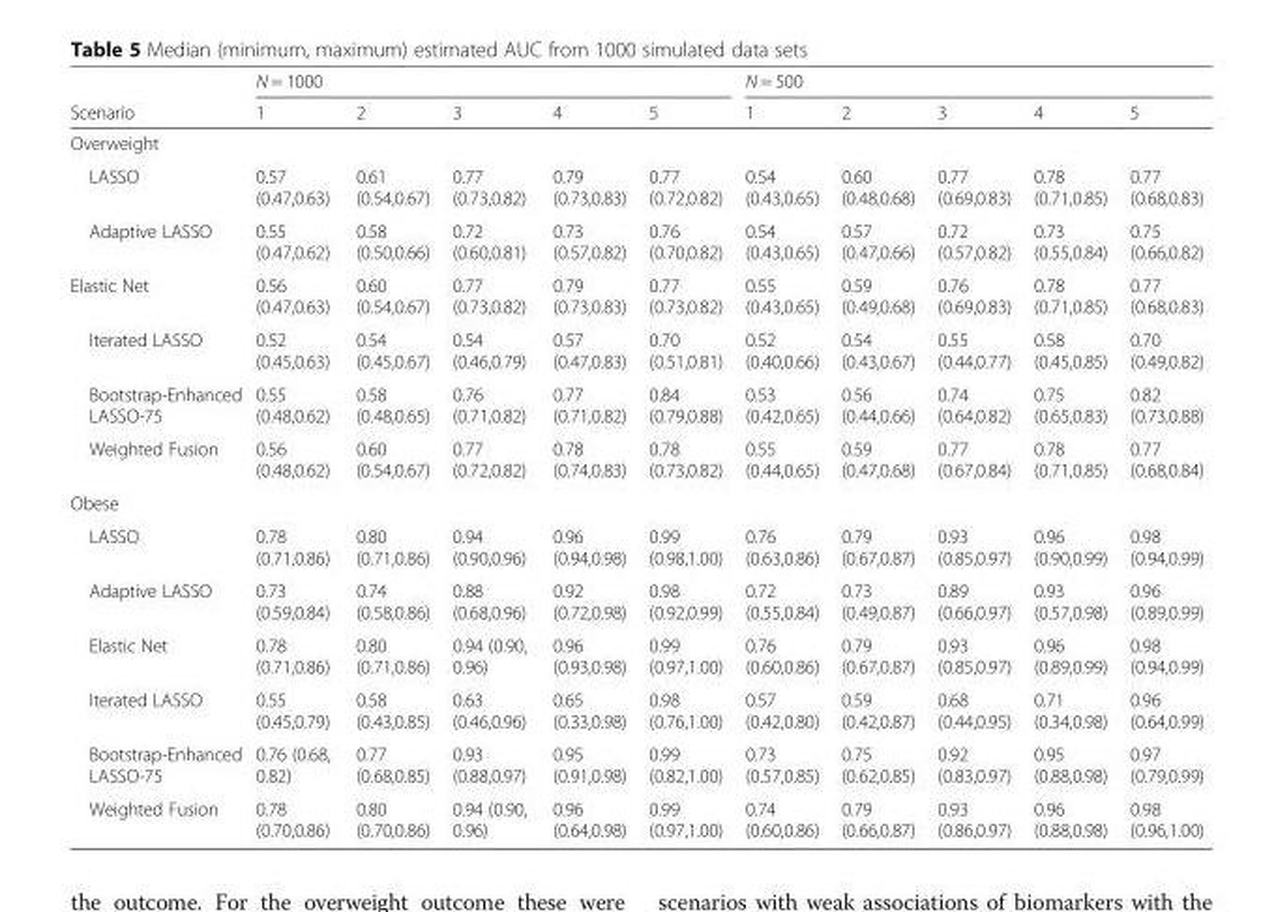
<table><thead><tr><td rowspan="2">Scenario</td><td colspan="5">N = 1000</td><td colspan="5">N = 500</td></tr><tr><td>1</td><td>2</td><td>3</td><td>4</td><td>5</td><td>1</td><td>2</td><td>3</td><td>4</td><td>5</td></tr></thead><tbody><tr><td colspan="11">Overweight</td></tr><tr><td>LASSO</td><td>0.57 (0.47,0.63)</td><td>0.61 (0.54,0.67)</td><td>0.77 (0.73,0.82)</td><td>0.79 (0.73,0.83)</td><td>0.77 (0.72,0.82)</td><td>0.54 (0.43,0.65)</td><td>0.60 (0.48,0.68)</td><td>0.77 (0.69,0.83)</td><td>0.78 (0.71,0.85)</td><td>0.77 (0.68,0.83)</td></tr><tr><td>Adaptive LASSO</td><td>0.55 (0.47,0.62)</td><td>0.58 (0.50,0.66)</td><td>0.72 (0.60,0.81)</td><td>0.73 (0.57,0.82)</td><td>0.76 (0.70,0.82)</td><td>0.54 (0.43,0.65)</td><td>0.57 (0.47,0.66)</td><td>0.72 (0.57,0.82)</td><td>0.73 (0.55,0.84)</td><td>0.75 (0.66,0.82)</td></tr><tr><td>Elastic Net</td><td>0.56 (0.47,0.63)</td><td>0.60 (0.54,0.67)</td><td>0.77 (0.73,0.82)</td><td>0.79 (0.73,0.83)</td><td>0.77 (0.73,0.82)</td><td>0.55 (0.43,0.65)</td><td>0.59 (0.49,0.68)</td><td>0.76 (0.69,0.83)</td><td>0.78 (0.71,0.85)</td><td>0.77 (0.68,0.83)</td></tr><tr><td>Iterated LASSO</td><td>0.52 (0.45,0.63)</td><td>0.54 (0.45,0.67)</td><td>0.54 (0.46,0.79)</td><td>0.57 (0.47,0.83)</td><td>0.70 (0.51,0.81)</td><td>0.52 (0.40,0.66)</td><td>0.54 (0.43,0.67)</td><td>0.55 (0.44,0.77)</td><td>0.58 (0.45,0.85)</td><td>0.70 (0.49,0.82)</td></tr><tr><td>Bootstrap-Enhanced LASSO-75</td><td>0.55 (0.48,0.62)</td><td>0.58 (0.48,0.65)</td><td>0.76 (0.71,0.82)</td><td>0.77 (0.71,0.82)</td><td>0.84 (0.79,0.88)</td><td>0.53 (0.42,0.65)</td><td>0.56 (0.44,0.66)</td><td>0.74 (0.64,0.82)</td><td>0.75 (0.65,0.83)</td><td>0.82 (0.73,0.88)</td></tr><tr><td>Weighted Fusion</td><td>0.56 (0.48,0.62)</td><td>0.60 (0.54,0.67)</td><td>0.77 (0.72,0.82)</td><td>0.78 (0.74,0.83)</td><td>0.78 (0.73,0.82)</td><td>0.55 (0.44,0.65)</td><td>0.59 (0.47,0.68)</td><td>0.77 (0.67,0.84)</td><td>0.78 (0.71,0.85)</td><td>0.77 (0.68,0.84)</td></tr><tr><td colspan="11">Obese</td></tr><tr><td>LASSO</td><td>0.78 (0.71,0.86)</td><td>0.80 (0.71,0.86)</td><td>0.94 (0.90,0.96)</td><td>0.96 (0.94,0.98)</td><td>0.99 (0.98,1.00)</td><td>0.76 (0.63,0.86)</td><td>0.79 (0.67,0.87)</td><td>0.93 (0.85,0.97)</td><td>0.96 (0.90,0.99)</td><td>0.98 (0.94,0.99)</td></tr><tr><td>Adaptive LASSO</td><td>0.73 (0.59,0.84)</td><td>0.74 (0.58,0.86)</td><td>0.88 (0.68,0.96)</td><td>0.92 (0.72,0.98)</td><td>0.98 (0.92,0.99)</td><td>0.72 (0.55,0.84)</td><td>0.73 (0.49,0.87)</td><td>0.89 (0.66,0.97)</td><td>0.93 (0.57,0.98)</td><td>0.96 (0.89,0.99)</td></tr><tr><td>Elastic Net</td><td>0.78 (0.71,0.86)</td><td>0.80 (0.71,0.86)</td><td>0.94 (0.90, 0.96)</td><td>0.96 (0.93,0.98)</td><td>0.99 (0.97,1.00)</td><td>0.76 (0.60,0.86)</td><td>0.79 (0.67,0.87)</td><td>0.93 (0.85,0.97)</td><td>0.96 (0.89,0.99)</td><td>0.98 (0.94,0.99)</td></tr><tr><td>Iterated LASSO</td><td>0.55 (0.45,0.79)</td><td>0.58 (0.43,0.85)</td><td>0.63 (0.46,0.96)</td><td>0.65 (0.33,0.98)</td><td>0.98 (0.76,1.00)</td><td>0.57 (0.42,0.80)</td><td>0.59 (0.42,0.87)</td><td>0.68 (0.44,0.95)</td><td>0.71 (0.34,0.98)</td><td>0.96 (0.64,0.99)</td></tr><tr><td>Bootstrap-Enhanced LASSO-75</td><td>0.76 (0.68, 0.82)</td><td>0.77 (0.68,0.85)</td><td>0.93 (0.88,0.97)</td><td>0.95 (0.91,0.98)</td><td>0.99 (0.82,1.00)</td><td>0.73 (0.57,0.85)</td><td>0.75 (0.62,0.85)</td><td>0.92 (0.83,0.97)</td><td>0.95 (0.88,0.98)</td><td>0.97 (0.79,0.99)</td></tr><tr><td>Weighted Fusion</td><td>0.78 (0.70,0.86)</td><td>0.80 (0.70,0.86)</td><td>0.94 (0.90, 0.96)</td><td>0.96 (0.64,0.98)</td><td>0.99 (0.97,1.00)</td><td>0.74 (0.60,0.86)</td><td>0.79 (0.66,0.87)</td><td>0.93 (0.86,0.97)</td><td>0.96 (0.88,0.98)</td><td>0.98 (0.96,1.00)</td></tr></tbody></table>